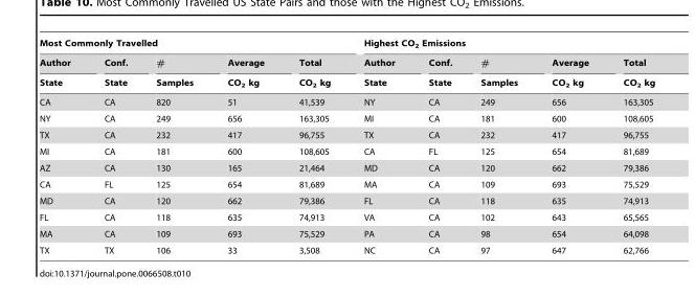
<table><thead><tr><td colspan="5">Most Commonly Travelled</td><td colspan="5">Highest CO<sub>2</sub> Emissions</td></tr><tr><td rowspan="2">Author State</td><td rowspan="2">Conf. State</td><td rowspan="2"># Samples</td><td rowspan="2">Average CO<sub>2</sub> kg</td><td rowspan="2">Total CO<sub>2</sub> kg</td><td rowspan="2">Author State</td><td rowspan="2">Conf. State</td><td rowspan="2"># Samples</td><td rowspan="2">Average CO<sub>2</sub> kg</td><td rowspan="2">Total CO<sub>2</sub> kg</td></tr><tr></tr></thead><tbody><tr><td>CA</td><td>CA</td><td>820</td><td>51</td><td>41,539</td><td>NY</td><td>CA</td><td>249</td><td>656</td><td>163,305</td></tr><tr><td>NY</td><td>CA</td><td>249</td><td>656</td><td>163,305</td><td>MI</td><td>CA</td><td>181</td><td>600</td><td>108,605</td></tr><tr><td>TX</td><td>CA</td><td>232</td><td>417</td><td>96,755</td><td>TX</td><td>CA</td><td>232</td><td>417</td><td>96,755</td></tr><tr><td>MI</td><td>CA</td><td>181</td><td>600</td><td>108,605</td><td>CA</td><td>FL</td><td>125</td><td>654</td><td>81,689</td></tr><tr><td>AZ</td><td>CA</td><td>130</td><td>165</td><td>21,464</td><td>MD</td><td>CA</td><td>120</td><td>662</td><td>79,386</td></tr><tr><td>CA</td><td>FL</td><td>125</td><td>654</td><td>81,689</td><td>MA</td><td>CA</td><td>109</td><td>693</td><td>75,529</td></tr><tr><td>MD</td><td>CA</td><td>120</td><td>662</td><td>79,386</td><td>FL</td><td>CA</td><td>118</td><td>635</td><td>74,913</td></tr><tr><td>FL</td><td>CA</td><td>118</td><td>635</td><td>74,913</td><td>VA</td><td>CA</td><td>102</td><td>643</td><td>65,565</td></tr><tr><td>MA</td><td>CA</td><td>109</td><td>693</td><td>75,529</td><td>PA</td><td>CA</td><td>98</td><td>654</td><td>64,098</td></tr><tr><td>TX</td><td>TX</td><td>106</td><td>33</td><td>3,508</td><td>NC</td><td>CA</td><td>97</td><td>647</td><td>62,766</td></tr></tbody></table>